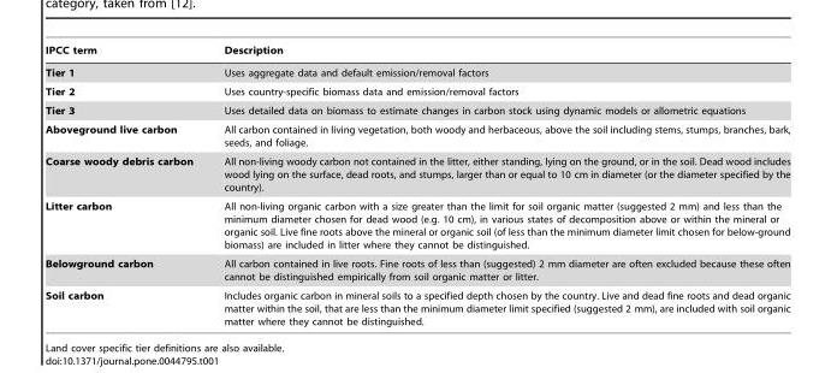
<table><thead><tr><td>IPCC term</td><td>Description</td></tr></thead><tbody><tr><td>Tier 1</td><td>Uses aggregate data and default emission/removal factors</td></tr><tr><td>Tier 2</td><td>Uses country-specific biomass data and emission/removal factors</td></tr><tr><td>Tier 3</td><td>Uses detailed data on biomass to estimate changes in carbon stock using dynamic models or allometric equations</td></tr><tr><td>Aboveground live carbon</td><td>All carbon contained in living vegetation, both woody and herbaceous, above the soil including stems, stumps, branches, bark, seeds, and foliage.</td></tr><tr><td>Coarse woody debris carbon</td><td>All non-living woody carbon not contained in the litter, either standing, lying on the ground, or in the soil. Dead wood includes wood lying on the surface, dead roots, and stumps, larger than or equal to 10 cm in diameter (or the diameter specified by the country).</td></tr><tr><td>Litter carbon</td><td>All non-living organic carbon with a size greater than the limit for soil organic matter (suggested 2 mm) and less than the minimum diameter chosen for dead wood (e.g. 10 cm), in various states of decomposition above or within the mineral or organic soil. Live fine roots above the mineral or organic soil (of less than the minimum diameter limit chosen for below-ground biomass) are included in litter where they cannot be distinguished.</td></tr><tr><td>Belowground carbon</td><td>All carbon contained in live roots. Fine roots of less than (suggested) 2 mm diameter are often excluded because these often cannot be distinguished empirically from soil organic matter or litter.</td></tr><tr><td>Soil carbon</td><td>Includes organic carbon in mineral soils to a specified depth chosen by the country. Live and dead fine roots and dead organic matter within the soil, that are less than the minimum diameter limit specified (suggested 2 mm), are included with soil organic matter where they cannot be distinguished.</td></tr></tbody></table>